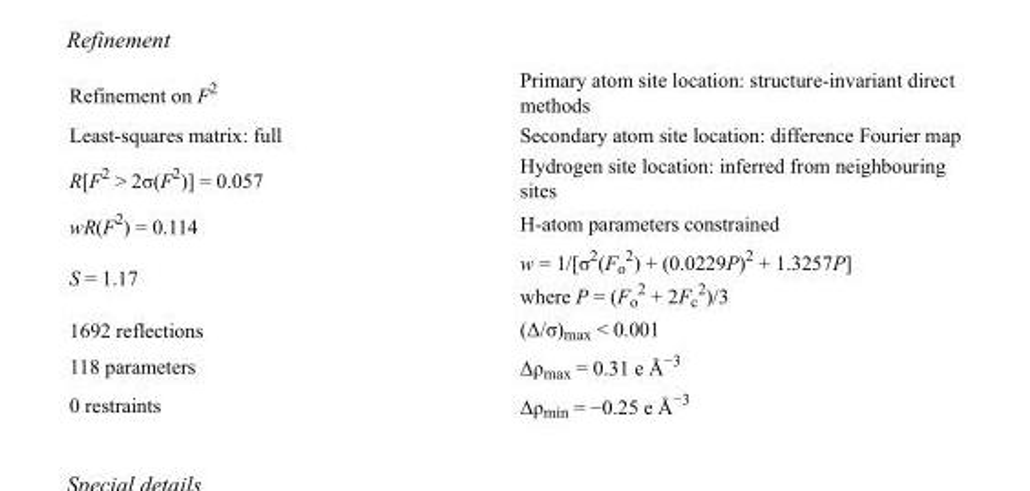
<table><tbody><tr><td>Refinement on F<sup>2</sup></td><td>Primary atom site location: structure-invariant direct methods</td></tr><tr><td>Least-squares matrix: full</td><td>Secondary atom site location: difference Fourier map</td></tr><tr><td>R[F<sup>2</sup> &gt; 2σ(F<sup>2</sup>)] = 0.057</td><td>Hydrogen site location: inferred from neighbouring sites</td></tr><tr><td>wR(F<sup>2</sup>) = 0.114</td><td>H-atom parameters constrained</td></tr><tr><td>S = 1.17</td><td>w = 1/[σ<sup>2</sup>(F<sub>o</sub> <sup>2</sup>) + (0.0229P)<sup>2</sup> + 1.3257P] where P = (F<sub>o</sub> <sup>2</sup> + 2F<sub>c</sub> <sup>2</sup>)/3</td></tr><tr><td>1692 reflections</td><td>(Δ/σ)<sub>max</sub> &lt; 0.001</td></tr><tr><td>118 parameters</td><td>Δρ<sub>max</sub> = 0.31 e Å<sup>−3</sup></td></tr><tr><td>0 restraints</td><td>Δρmin = −0.25 e Å−3</td></tr></tbody></table>